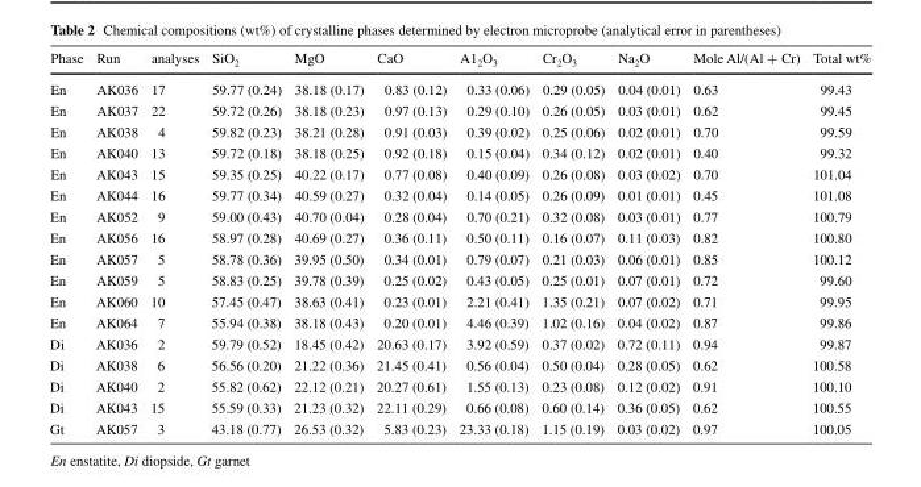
<table><thead><tr><td>Phase</td><td>Run</td><td>analyses</td><td>SiO<sub>2</sub></td><td>MgO</td><td>CaO</td><td>A1<sub>2</sub>O<sub>3</sub></td><td>Cr<sub>2</sub>O<sub>3</sub></td><td>Na<sub>2</sub>O</td><td>Mole Al/(Al + Cr)</td><td>Total wt%</td></tr></thead><tbody><tr><td>En</td><td>AK036</td><td>17</td><td>59.77 (0.24)</td><td>38.18 (0.17)</td><td>0.83 (0.12)</td><td>0.33 (0.06)</td><td>0.29 (0.05)</td><td>0.04 (0.01)</td><td>0.63</td><td>99.43</td></tr><tr><td>En</td><td>AK037</td><td>22</td><td>59.72 (0.26)</td><td>38.18 (0.23)</td><td>0.97 (0.13)</td><td>0.29 (0.10)</td><td>0.26 (0.05)</td><td>0.03 (0.01)</td><td>0.62</td><td>99.45</td></tr><tr><td>En</td><td>AK038</td><td>4</td><td>59.82 (0.23)</td><td>38.21 (0.28)</td><td>0.91 (0.03)</td><td>0.39 (0.02)</td><td>0.25 (0.06)</td><td>0.02 (0.01)</td><td>0.70</td><td>99.59</td></tr><tr><td>En</td><td>AK040</td><td>13</td><td>59.72 (0.18)</td><td>38.18 (0.25)</td><td>0.92 (0.18)</td><td>0.15 (0.04)</td><td>0.34 (0.12)</td><td>0.02 (0.01)</td><td>0.40</td><td>99.32</td></tr><tr><td>En</td><td>AK043</td><td>15</td><td>59.35 (0.25)</td><td>40.22 (0.17)</td><td>0.77 (0.08)</td><td>0.40 (0.09)</td><td>0.26 (0.08)</td><td>0.03 (0.02)</td><td>0.70</td><td>101.04</td></tr><tr><td>En</td><td>AK044</td><td>16</td><td>59.77 (0.34)</td><td>40.59 (0.27)</td><td>0.32 (0.04)</td><td>0.14 (0.05)</td><td>0.26 (0.09)</td><td>0.01 (0.01)</td><td>0.45</td><td>101.08</td></tr><tr><td>En</td><td>AK052</td><td>9</td><td>59.00 (0.43)</td><td>40.70 (0.04)</td><td>0.28 (0.04)</td><td>0.70 (0.21)</td><td>0.32 (0.08)</td><td>0.03 (0.01)</td><td>0.77</td><td>100.79</td></tr><tr><td>En</td><td>AK056</td><td>16</td><td>58.97 (0.28)</td><td>40.69 (0.27)</td><td>0.36 (0.11)</td><td>0.50 (0.11)</td><td>0.16 (0.07)</td><td>0.11 (0.03)</td><td>0.82</td><td>100.80</td></tr><tr><td>En</td><td>AK057</td><td>5</td><td>58.78 (0.36)</td><td>39.95 (0.50)</td><td>0.34 (0.01)</td><td>0.79 (0.07)</td><td>0.21 (0.03)</td><td>0.06 (0.01)</td><td>0.85</td><td>100.12</td></tr><tr><td>En</td><td>AK059</td><td>5</td><td>58.83 (0.25)</td><td>39.78 (0.39)</td><td>0.25 (0.02)</td><td>0.43 (0.05)</td><td>0.25 (0.01)</td><td>0.07 (0.01)</td><td>0.72</td><td>99.60</td></tr><tr><td>En</td><td>AK060</td><td>10</td><td>57.45 (0.47)</td><td>38.63 (0.41)</td><td>0.23 (0.01)</td><td>2.21 (0.41)</td><td>1.35 (0.21)</td><td>0.07 (0.02)</td><td>0.71</td><td>99.95</td></tr><tr><td>En</td><td>AK064</td><td>7</td><td>55.94 (0.38)</td><td>38.18 (0.43)</td><td>0.20 (0.01)</td><td>4.46 (0.39)</td><td>1.02 (0.16)</td><td>0.04 (0.02)</td><td>0.87</td><td>99.86</td></tr><tr><td>Di</td><td>AK036</td><td>2</td><td>59.79 (0.52)</td><td>18.45 (0.42)</td><td>20.63 (0.17)</td><td>3.92 (0.59)</td><td>0.37 (0.02)</td><td>0.72 (0.11)</td><td>0.94</td><td>99.87</td></tr><tr><td>Di</td><td>AK038</td><td>6</td><td>56.56 (0.20)</td><td>21.22 (0.36)</td><td>21.45 (0.41)</td><td>0.56 (0.04)</td><td>0.50 (0.04)</td><td>0.28 (0.05)</td><td>0.62</td><td>100.58</td></tr><tr><td>Di</td><td>AK040</td><td>2</td><td>55.82 (0.62)</td><td>22.12 (0.21)</td><td>20.27 (0.61)</td><td>1.55 (0.13)</td><td>0.23 (0.08)</td><td>0.12 (0.02)</td><td>0.91</td><td>100.10</td></tr><tr><td>Di</td><td>AK043</td><td>15</td><td>55.59 (0.33)</td><td>21.23 (0.32)</td><td>22.11 (0.29)</td><td>0.66 (0.08)</td><td>0.60 (0.14)</td><td>0.36 (0.05)</td><td>0.62</td><td>100.55</td></tr><tr><td>Gt</td><td>AK057</td><td>3</td><td>43.18 (0.77)</td><td>26.53 (0.32)</td><td>5.83 (0.23)</td><td>23.33 (0.18)</td><td>1.15 (0.19)</td><td>0.03 (0.02)</td><td>0.97</td><td>100.05</td></tr></tbody></table>